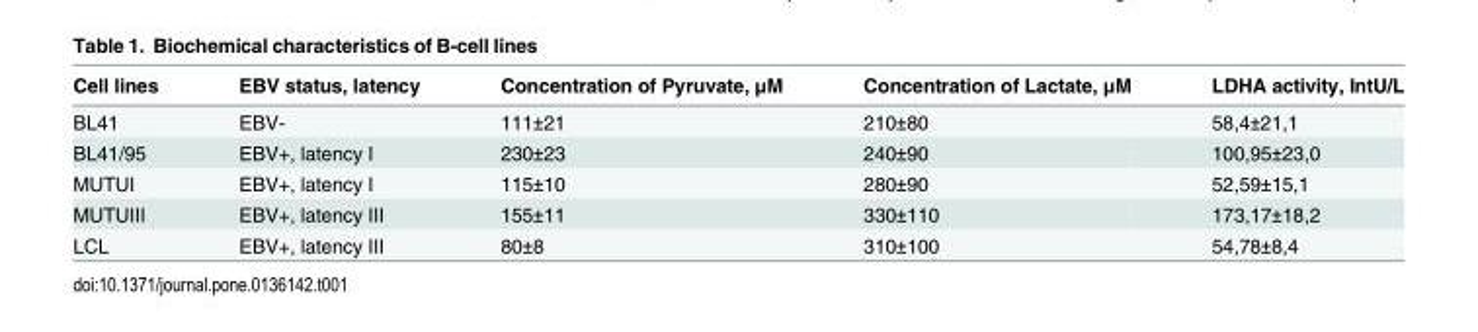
<table><thead><tr><td>Cell lines</td><td>EBV status, latency</td><td>Concentration of Pyruvate, μM</td><td>Concentration of Lactate, μM</td><td>LDHA activity, IntU/L</td></tr></thead><tbody><tr><td>BL41</td><td>EBV-</td><td>111±21</td><td>210±80</td><td>58,4±21,1</td></tr><tr><td>BL41/95</td><td>EBV+, latency I</td><td>230±23</td><td>240±90</td><td>100,95±23,0</td></tr><tr><td>MUTUI</td><td>EBV+, latency I</td><td>115±10</td><td>280±90</td><td>52,59±15,1</td></tr><tr><td>MUTUIII</td><td>EBV+, latency III</td><td>155±11</td><td>330±110</td><td>173,17±18,2</td></tr><tr><td>LCL</td><td>EBV+, latency III</td><td>80±8</td><td>310±100</td><td>54,78±8,4</td></tr></tbody></table>